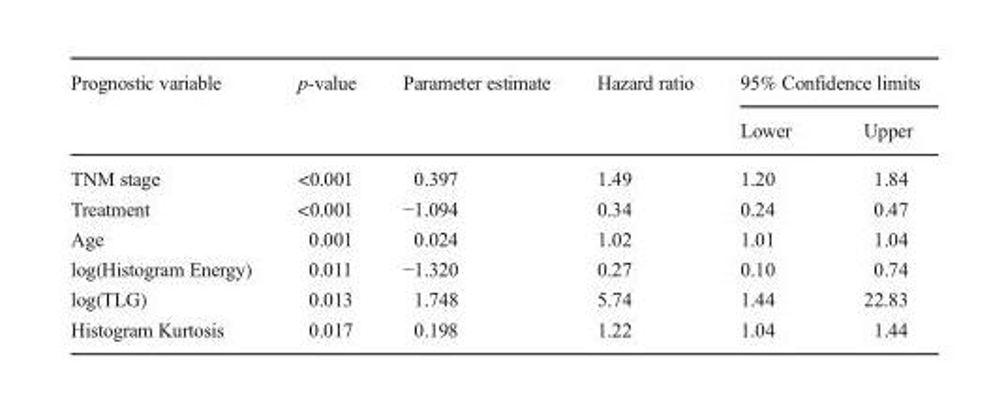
<table><thead><tr><td rowspan="2">Prognostic variable</td><td rowspan="2">p-value</td><td rowspan="2">Parameter estimate</td><td rowspan="2">Hazard ratio</td><td colspan="2">95% Confidence limits</td></tr><tr><td>Lower</td><td>Upper</td></tr></thead><tbody><tr><td>TNM stage</td><td>&lt;0.001</td><td>0.397</td><td>1.49</td><td>1.20</td><td>1.84</td></tr><tr><td>Treatment</td><td>&lt;0.001</td><td>−1.094</td><td>0.34</td><td>0.24</td><td>0.47</td></tr><tr><td>Age</td><td>0.001</td><td>0.024</td><td>1.02</td><td>1.01</td><td>1.04</td></tr><tr><td>log(Histogram Energy)</td><td>0.011</td><td>−1.320</td><td>0.27</td><td>0.10</td><td>0.74</td></tr><tr><td>log(TLG)</td><td>0.013</td><td>1.748</td><td>5.74</td><td>1.44</td><td>22.83</td></tr><tr><td>Histogram Kurtosis</td><td>0.017</td><td>0.198</td><td>1.22</td><td>1.04</td><td>1.44</td></tr></tbody></table>